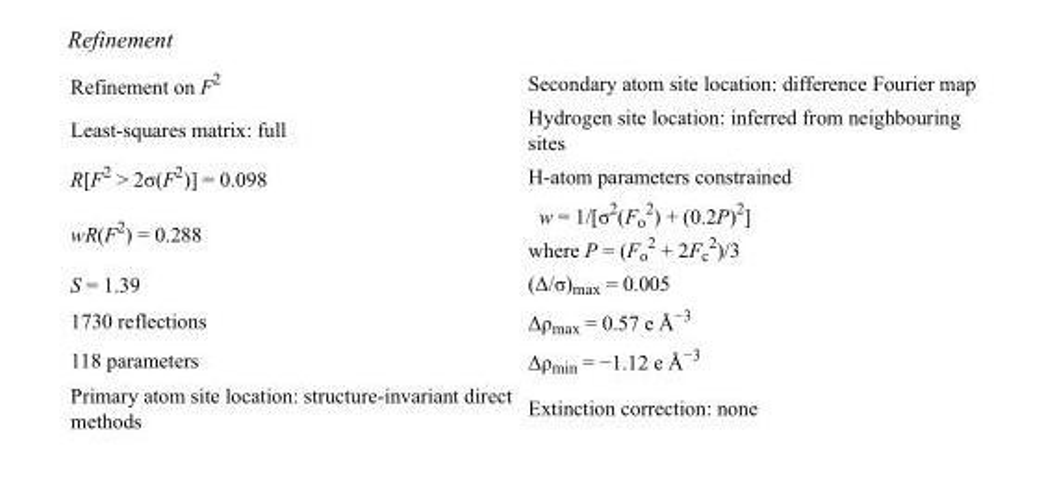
<table><tbody><tr><td>Refinement on F<sup>2</sup></td><td>Secondary atom site location: difference Fourier map</td></tr><tr><td>Least-squares matrix: full</td><td>Hydrogen site location: inferred from neighbouring sites</td></tr><tr><td>R[F<sup>2</sup> &gt; 2σ(F<sup>2</sup>)] = 0.098</td><td>H-atom parameters constrained</td></tr><tr><td>wR(F<sup>2</sup>) = 0.288</td><td>w = 1/[σ<sup>2</sup>(F<sub>o</sub> <sup>2</sup>) + (0.2P)<sup>2</sup>] where P = (F<sub>o</sub> <sup>2</sup> + 2F<sub>c</sub> <sup>2</sup>)/3</td></tr><tr><td>S = 1.39</td><td>(Δ/σ)<sub>max</sub> = 0.005</td></tr><tr><td>1730 reflections</td><td>Δρ<sub>max</sub> = 0.57 e Å<sup>−3</sup></td></tr><tr><td>118 parameters</td><td>Δρ<sub>min</sub> = −1.12 e Å<sup>−3</sup></td></tr><tr><td>Primary atom site location: structure-invariant direct methods</td><td>Extinction correction: none</td></tr></tbody></table>